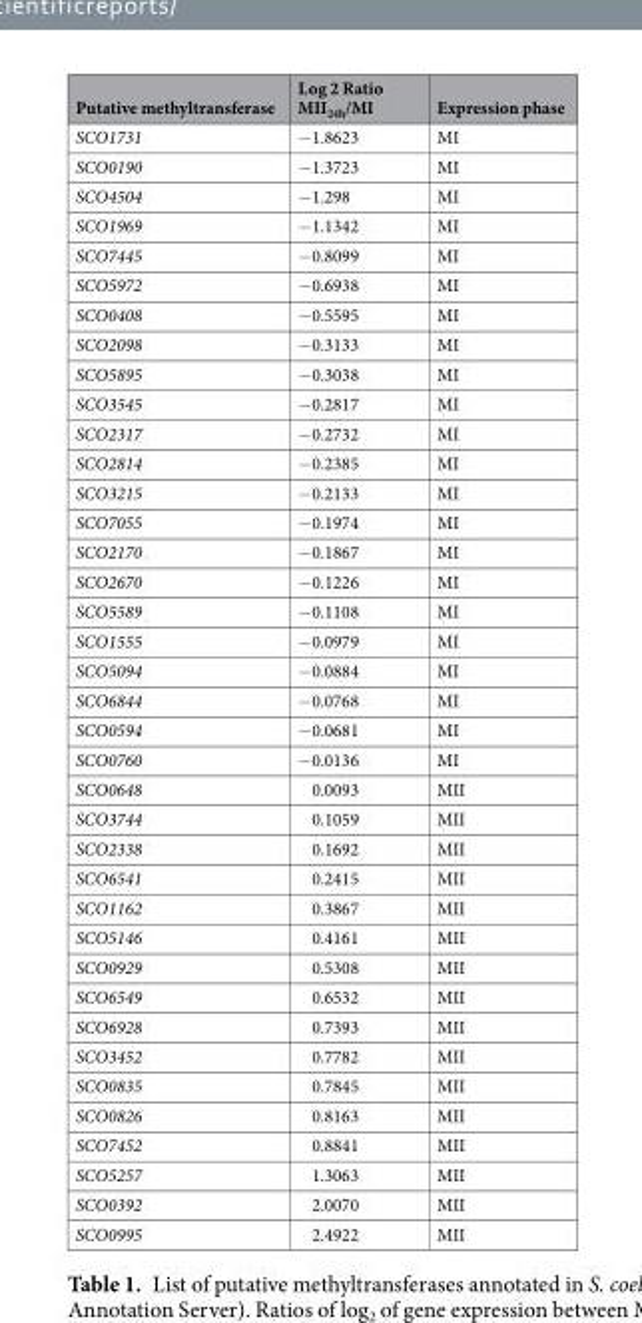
<table><thead><tr><td>Putative methyltransferase</td><td>Log 2 Ratio MII<sub>24h</sub>/MI</td><td>Expression phase</td></tr></thead><tbody><tr><td>SCO1731</td><td>−1.8623</td><td>MI</td></tr><tr><td>SCO0190</td><td>−1.3723</td><td>MI</td></tr><tr><td>SCO4504</td><td>−1.298</td><td>MI</td></tr><tr><td>SCO1969</td><td>−1.1342</td><td>MI</td></tr><tr><td>SCO7445</td><td>−0.8099</td><td>MI</td></tr><tr><td>SCO5972</td><td>−0.6938</td><td>MI</td></tr><tr><td>SCO0408</td><td>−0.5595</td><td>MI</td></tr><tr><td>SCO2098</td><td>−0.3133</td><td>MI</td></tr><tr><td>SCO5895</td><td>−0.3038</td><td>MI</td></tr><tr><td>SCO3545</td><td>−0.2817</td><td>MI</td></tr><tr><td>SCO2317</td><td>−0.2732</td><td>MI</td></tr><tr><td>SCO2814</td><td>−0.2385</td><td>MI</td></tr><tr><td>SCO3215</td><td>−0.2133</td><td>MI</td></tr><tr><td>SCO7055</td><td>−0.1974</td><td>MI</td></tr><tr><td>SCO2170</td><td>−0.1867</td><td>MI</td></tr><tr><td>SCO2670</td><td>−0.1226</td><td>MI</td></tr><tr><td>SCO5589</td><td>−0.1108</td><td>MI</td></tr><tr><td>SCO1555</td><td>−0.0979</td><td>MI</td></tr><tr><td>SCO5094</td><td>−0.0884</td><td>MI</td></tr><tr><td>SCO6844</td><td>−0.0768</td><td>MI</td></tr><tr><td>SCO0594</td><td>−0.0681</td><td>MI</td></tr><tr><td>SCO0760</td><td>−0.0136</td><td>MI</td></tr><tr><td>SCO0648</td><td>0.0093</td><td>MII</td></tr><tr><td>SCO3744</td><td>0.1059</td><td>MII</td></tr><tr><td>SCO2338</td><td>0.1692</td><td>MII</td></tr><tr><td>SCO6541</td><td>0.2415</td><td>MII</td></tr><tr><td>SCO1162</td><td>0.3867</td><td>MII</td></tr><tr><td>SCO5146</td><td>0.4161</td><td>MII</td></tr><tr><td>SCO0929</td><td>0.5308</td><td>MII</td></tr><tr><td>SCO6549</td><td>0.6532</td><td>MII</td></tr><tr><td>SCO6928</td><td>0.7393</td><td>MII</td></tr><tr><td>SCO3452</td><td>0.7782</td><td>MII</td></tr><tr><td>SCO0835</td><td>0.7845</td><td>MII</td></tr><tr><td>SCO0826</td><td>0.8163</td><td>MII</td></tr><tr><td>SCO7452</td><td>0.8841</td><td>MII</td></tr><tr><td>SCO5257</td><td>1.3063</td><td>MII</td></tr><tr><td>SCO0392</td><td>2.0070</td><td>MII</td></tr><tr><td>SCO0995</td><td>2.4922</td><td>MII</td></tr></tbody></table>